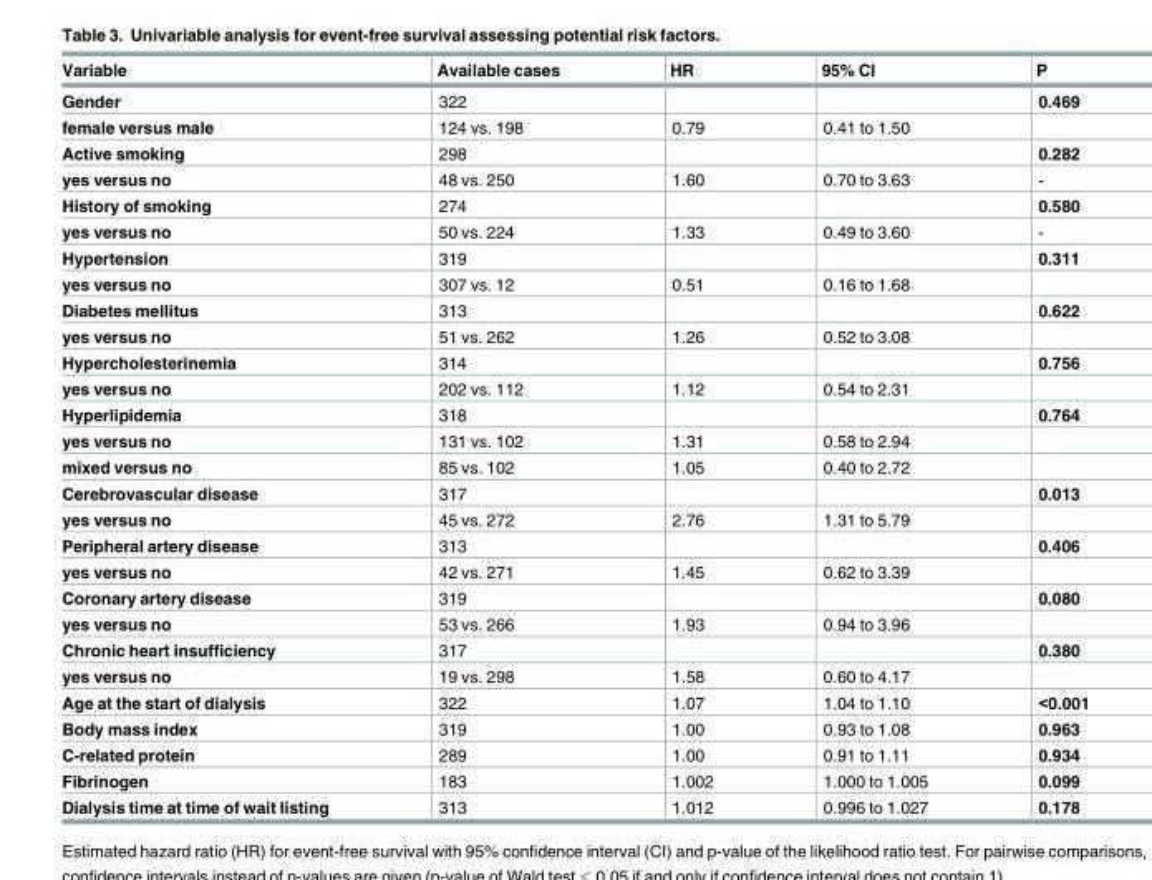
<table><thead><tr><td>Variable</td><td>Available cases</td><td>HR</td><td>95% CI</td><td>P</td></tr></thead><tbody><tr><td>Gender</td><td>322</td><td></td><td></td><td>0.469</td></tr><tr><td>female versus male</td><td>124 vs. 198</td><td>0.79</td><td>0.41 to 1.50</td><td></td></tr><tr><td>Active smoking</td><td>298</td><td></td><td></td><td>0.282</td></tr><tr><td>yes versus no</td><td>48 vs. 250</td><td>1.60</td><td>0.70 to 3.63</td><td>-</td></tr><tr><td>History of smoking</td><td>274</td><td></td><td></td><td>0.580</td></tr><tr><td>yes versus no</td><td>50 vs. 224</td><td>1.33</td><td>0.49 to 3.60</td><td>-</td></tr><tr><td>Hypertension</td><td>319</td><td></td><td></td><td>0.311</td></tr><tr><td>yes versus no</td><td>307 vs. 12</td><td>0.51</td><td>0.16 to 1.68</td><td></td></tr><tr><td>Diabetes mellitus</td><td>313</td><td></td><td></td><td>0.622</td></tr><tr><td>yes versus no</td><td>51 vs. 262</td><td>1.26</td><td>0.52 to 3.08</td><td></td></tr><tr><td>Hypercholesterinemia</td><td>314</td><td></td><td></td><td>0.756</td></tr><tr><td>yes versus no</td><td>202 vs. 112</td><td>1.12</td><td>0.54 to 2.31</td><td></td></tr><tr><td>Hyperlipidemia</td><td>318</td><td></td><td></td><td>0.764</td></tr><tr><td>yes versus no</td><td>131 vs. 102</td><td>1.31</td><td>0.58 to 2.94</td><td></td></tr><tr><td>mixed versus no</td><td>85 vs. 102</td><td>1.05</td><td>0.40 to 2.72</td><td></td></tr><tr><td>Cerebrovascular disease</td><td>317</td><td></td><td></td><td>0.013</td></tr><tr><td>yes versus no</td><td>45 vs. 272</td><td>2.76</td><td>1.31 to 5.79</td><td></td></tr><tr><td>Peripheral artery disease</td><td>313</td><td></td><td></td><td>0.406</td></tr><tr><td>yes versus no</td><td>42 vs. 271</td><td>1.45</td><td>0.62 to 3.39</td><td></td></tr><tr><td>Coronary artery disease</td><td>319</td><td></td><td></td><td>0.080</td></tr><tr><td>yes versus no</td><td>53 vs. 266</td><td>1.93</td><td>0.94 to 3.96</td><td></td></tr><tr><td>Chronic heart insufficiency</td><td>317</td><td></td><td></td><td>0.380</td></tr><tr><td>yes versus no</td><td>19 vs. 298</td><td>1.58</td><td>0.60 to 4.17</td><td></td></tr><tr><td>Age at the start of dialysis</td><td>322</td><td>1.07</td><td>1.04 to 1.10</td><td>&lt;0.001</td></tr><tr><td>Body mass index</td><td>319</td><td>1.00</td><td>0.93 to 1.08</td><td>0.963</td></tr><tr><td>C-related protein</td><td>289</td><td>1.00</td><td>0.91 to 1.11</td><td>0.934</td></tr><tr><td>Fibrinogen</td><td>183</td><td>1.002</td><td>1.000 to 1.005</td><td>0.099</td></tr><tr><td>Dialysis time at time of wait listing</td><td>313</td><td>1.012</td><td>0.996 to 1.027</td><td>0.178</td></tr></tbody></table>